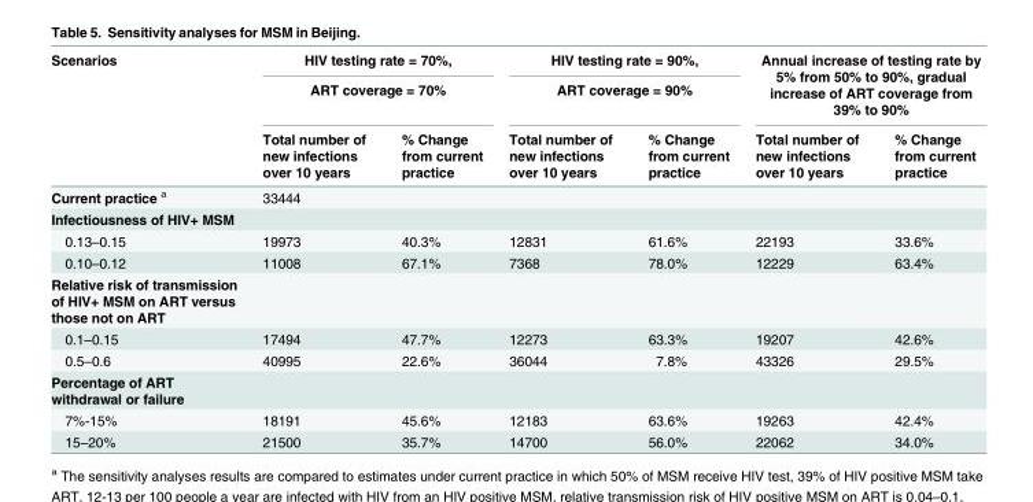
<table><thead><tr><td rowspan="3">Scenarios</td><td rowspan="2" colspan="2">HIV testing rate = 70%, ART coverage = 70%</td><td rowspan="2" colspan="2">HIV testing rate = 90%, ART coverage = 90%</td><td rowspan="2" colspan="2">Annual increase of testing rate by 5% from 50% to 90%, gradual increase of ART coverage from 39% to 90%</td></tr><tr></tr><tr><td>Total number of new infections over 10 years</td><td>% Change from current practice</td><td>Total number of new infections over 10 years</td><td>% Change from current practice</td><td>Total number of new infections over 10 years</td><td>% Change from current practice</td></tr></thead><tbody><tr><td>Current practice <sup>a</sup></td><td>33444</td><td></td><td></td><td></td><td></td><td></td></tr><tr><td colspan="7">Infectiousness of HIV+ MSM</td></tr><tr><td>0.13–0.15</td><td>19973</td><td>40.3%</td><td>12831</td><td>61.6%</td><td>22193</td><td>33.6%</td></tr><tr><td>0.10–0.12</td><td>11008</td><td>67.1%</td><td>7368</td><td>78.0%</td><td>12229</td><td>63.4%</td></tr><tr><td colspan="7">Relative risk of transmission of HIV+ MSM on ART versus those not on ART</td></tr><tr><td>0.1–0.15</td><td>17494</td><td>47.7%</td><td>12273</td><td>63.3%</td><td>19207</td><td>42.6%</td></tr><tr><td>0.5–0.6</td><td>40995</td><td>22.6%</td><td>36044</td><td>7.8%</td><td>43326</td><td>29.5%</td></tr><tr><td colspan="7">Percentage of ART withdrawal or failure</td></tr><tr><td>7%-15%</td><td>18191</td><td>45.6%</td><td>12183</td><td>63.6%</td><td>19263</td><td>42.4%</td></tr><tr><td>15–20%</td><td>21500</td><td>35.7%</td><td>14700</td><td>56.0%</td><td>22062</td><td>34.0%</td></tr></tbody></table>